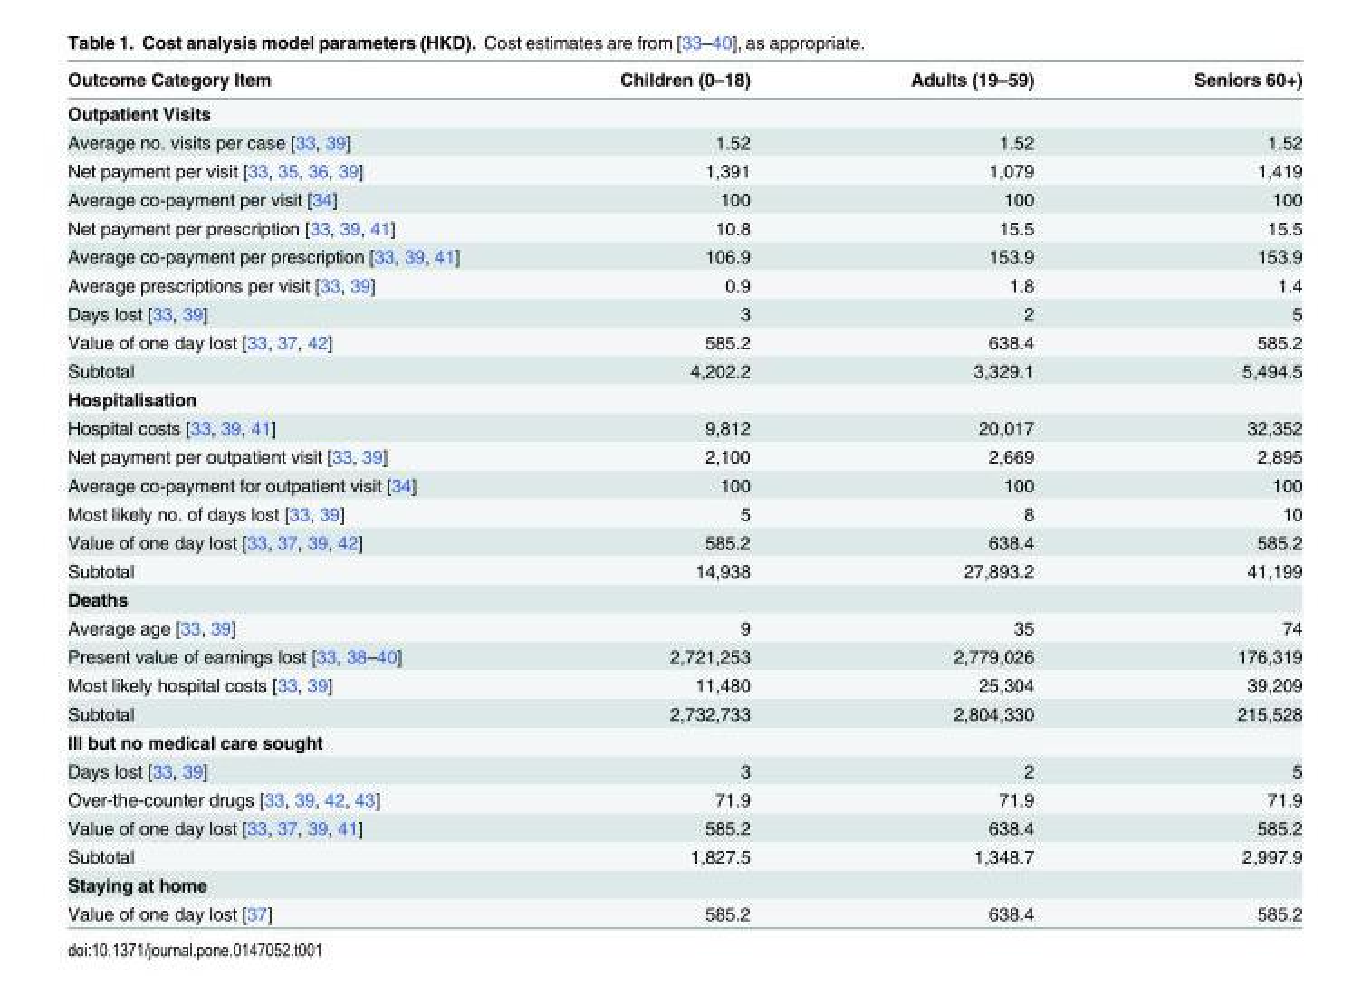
<table><thead><tr><td>Outcome Category Item</td><td>Children (0–18)</td><td>Adults (19–59)</td><td>Seniors 60+)</td></tr></thead><tbody><tr><td colspan="4">Outpatient Visits</td></tr><tr><td>Average no. visits per case [33, 39]</td><td>1.52</td><td>1.52</td><td>1.52</td></tr><tr><td>Net payment per visit [33, 35, 36, 39]</td><td>1,391</td><td>1,079</td><td>1,419</td></tr><tr><td>Average co-payment per visit [34]</td><td>100</td><td>100</td><td>100</td></tr><tr><td>Net payment per prescription [33, 39, 41]</td><td>10.8</td><td>15.5</td><td>15.5</td></tr><tr><td>Average co-payment per prescription [33, 39, 41]</td><td>106.9</td><td>153.9</td><td>153.9</td></tr><tr><td>Average prescriptions per visit [33, 39]</td><td>0.9</td><td>1.8</td><td>1.4</td></tr><tr><td>Days lost [33, 39]</td><td>3</td><td>2</td><td>5</td></tr><tr><td>Value of one day lost [33, 37, 42]</td><td>585.2</td><td>638.4</td><td>585.2</td></tr><tr><td>Subtotal</td><td>4,202.2</td><td>3,329.1</td><td>5,494.5</td></tr><tr><td colspan="4">Hospitalisation</td></tr><tr><td>Hospital costs [33, 39, 41]</td><td>9,812</td><td>20,017</td><td>32,352</td></tr><tr><td>Net payment per outpatient visit [33, 39]</td><td>2,100</td><td>2,669</td><td>2,895</td></tr><tr><td>Average co-payment for outpatient visit [34]</td><td>100</td><td>100</td><td>100</td></tr><tr><td>Most likely no. of days lost [33, 39]</td><td>5</td><td>8</td><td>10</td></tr><tr><td>Value of one day lost [33, 37, 39, 42]</td><td>585.2</td><td>638.4</td><td>585.2</td></tr><tr><td>Subtotal</td><td>14,938</td><td>27,893.2</td><td>41,199</td></tr><tr><td colspan="4">Deaths</td></tr><tr><td>Average age [33, 39]</td><td>9</td><td>35</td><td>74</td></tr><tr><td>Present value of earnings lost [33, 38–40]</td><td>2,721,253</td><td>2,779,026</td><td>176,319</td></tr><tr><td>Most likely hospital costs [33, 39]</td><td>11,480</td><td>25,304</td><td>39,209</td></tr><tr><td>Subtotal</td><td>2,732,733</td><td>2,804,330</td><td>215,528</td></tr><tr><td colspan="4">Ill but no medical care sought</td></tr><tr><td>Days lost [33, 39]</td><td>3</td><td>2</td><td>5</td></tr><tr><td>Over-the-counter drugs [33, 39, 42, 43]</td><td>71.9</td><td>71.9</td><td>71.9</td></tr><tr><td>Value of one day lost [33, 37, 39, 41]</td><td>585.2</td><td>638.4</td><td>585.2</td></tr><tr><td>Subtotal</td><td>1,827.5</td><td>1,348.7</td><td>2,997.9</td></tr><tr><td colspan="4">Staying at home</td></tr><tr><td>Value of one day lost [37]</td><td>585.2</td><td>638.4</td><td>585.2</td></tr></tbody></table>